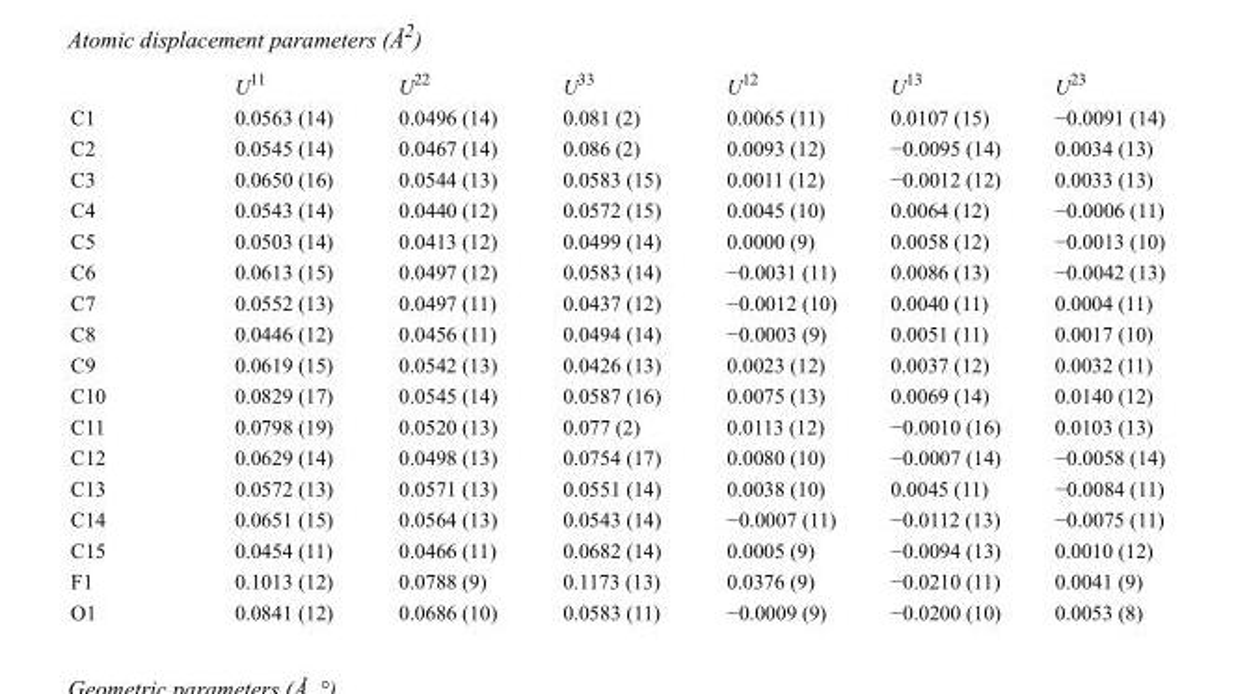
<table><thead><tr><td></td><td>U<sup>11</sup></td><td>U<sup>22</sup></td><td>U<sup>33</sup></td><td>U<sup>12</sup></td><td>U<sup>13</sup></td><td>U<sup>23</sup></td></tr></thead><tbody><tr><td>C1</td><td>0.0563 (14)</td><td>0.0496 (14)</td><td>0.081 (2)</td><td>0.0065 (11)</td><td>0.0107 (15)</td><td>−0.0091 (14)</td></tr><tr><td>C2</td><td>0.0545 (14)</td><td>0.0467 (14)</td><td>0.086 (2)</td><td>0.0093 (12)</td><td>−0.0095 (14)</td><td>0.0034 (13)</td></tr><tr><td>C3</td><td>0.0650 (16)</td><td>0.0544 (13)</td><td>0.0583 (15)</td><td>0.0011 (12)</td><td>−0.0012 (12)</td><td>0.0033 (13)</td></tr><tr><td>C4</td><td>0.0543 (14)</td><td>0.0440 (12)</td><td>0.0572 (15)</td><td>0.0045 (10)</td><td>0.0064 (12)</td><td>−0.0006 (11)</td></tr><tr><td>C5</td><td>0.0503 (14)</td><td>0.0413 (12)</td><td>0.0499 (14)</td><td>0.0000 (9)</td><td>0.0058 (12)</td><td>−0.0013 (10)</td></tr><tr><td>C6</td><td>0.0613 (15)</td><td>0.0497 (12)</td><td>0.0583 (14)</td><td>−0.0031 (11)</td><td>0.0086 (13)</td><td>−0.0042 (13)</td></tr><tr><td>C7</td><td>0.0552 (13)</td><td>0.0497 (11)</td><td>0.0437 (12)</td><td>−0.0012 (10)</td><td>0.0040 (11)</td><td>0.0004 (11)</td></tr><tr><td>C8</td><td>0.0446 (12)</td><td>0.0456 (11)</td><td>0.0494 (14)</td><td>−0.0003 (9)</td><td>0.0051 (11)</td><td>0.0017 (10)</td></tr><tr><td>C9</td><td>0.0619 (15)</td><td>0.0542 (13)</td><td>0.0426 (13)</td><td>0.0023 (12)</td><td>0.0037 (12)</td><td>0.0032 (11)</td></tr><tr><td>C10</td><td>0.0829 (17)</td><td>0.0545 (14)</td><td>0.0587 (16)</td><td>0.0075 (13)</td><td>0.0069 (14)</td><td>0.0140 (12)</td></tr><tr><td>C11</td><td>0.0798 (19)</td><td>0.0520 (13)</td><td>0.077 (2)</td><td>0.0113 (12)</td><td>−0.0010 (16)</td><td>0.0103 (13)</td></tr><tr><td>C12</td><td>0.0629 (14)</td><td>0.0498 (13)</td><td>0.0754 (17)</td><td>0.0080 (10)</td><td>−0.0007 (14)</td><td>−0.0058 (14)</td></tr><tr><td>C13</td><td>0.0572 (13)</td><td>0.0571 (13)</td><td>0.0551 (14)</td><td>0.0038 (10)</td><td>0.0045 (11)</td><td>−0.0084 (11)</td></tr><tr><td>C14</td><td>0.0651 (15)</td><td>0.0564 (13)</td><td>0.0543 (14)</td><td>−0.0007 (11)</td><td>−0.0112 (13)</td><td>−0.0075 (11)</td></tr><tr><td>C15</td><td>0.0454 (11)</td><td>0.0466 (11)</td><td>0.0682 (14)</td><td>0.0005 (9)</td><td>−0.0094 (13)</td><td>0.0010 (12)</td></tr><tr><td>F1</td><td>0.1013 (12)</td><td>0.0788 (9)</td><td>0.1173 (13)</td><td>0.0376 (9)</td><td>−0.0210 (11)</td><td>0.0041 (9)</td></tr><tr><td>O1</td><td>0.0841 (12)</td><td>0.0686 (10)</td><td>0.0583 (11)</td><td>−0.0009 (9)</td><td>−0.0200 (10)</td><td>0.0053 (8)</td></tr></tbody></table>